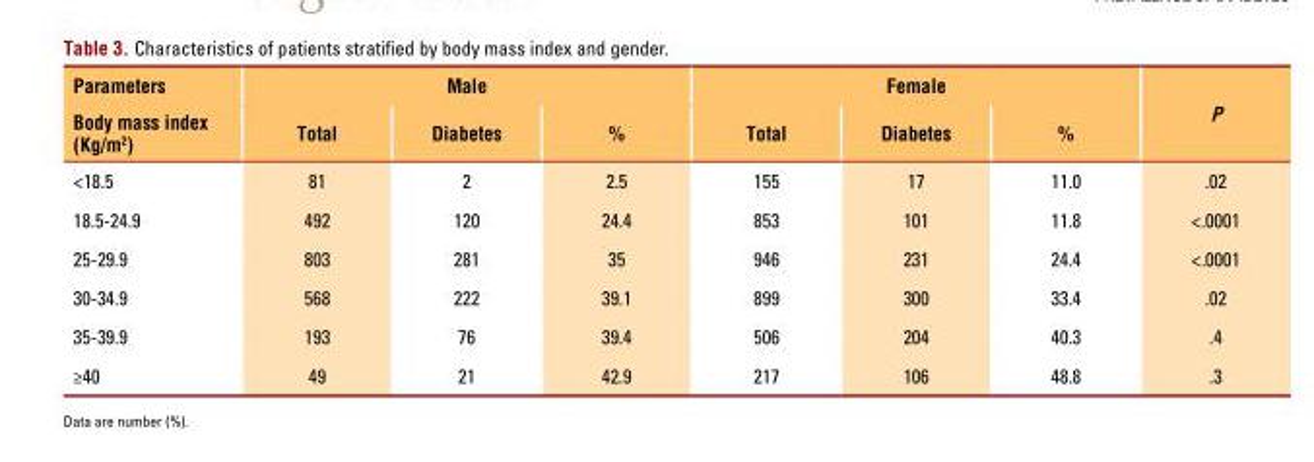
<table><thead><tr><td rowspan="2">Parameters Body mass index (Kg/m<sup>2</sup>)</td><td colspan="3">Male</td><td colspan="3">Female</td><td rowspan="2">P</td></tr><tr><td>Total</td><td>Diabetes</td><td>%</td><td>Total</td><td>Diabetes</td><td>%</td></tr></thead><tbody><tr><td>&lt;18.5</td><td>81</td><td>2</td><td>2.5</td><td>155</td><td>17</td><td>11.0</td><td>.02</td></tr><tr><td>18.5-24.9</td><td>492</td><td>120</td><td>24.4</td><td>853</td><td>101</td><td>11.8</td><td>&lt;.0001</td></tr><tr><td>25-29.9</td><td>803</td><td>281</td><td>35</td><td>946</td><td>231</td><td>24.4</td><td>&lt;.0001</td></tr><tr><td>30-34.9</td><td>568</td><td>222</td><td>39.1</td><td>899</td><td>300</td><td>33.4</td><td>.02</td></tr><tr><td>35-39.9</td><td>193</td><td>76</td><td>39.4</td><td>506</td><td>204</td><td>40.3</td><td>.4</td></tr><tr><td>≥40</td><td>49</td><td>21</td><td>42.9</td><td>217</td><td>106</td><td>48.8</td><td>.3</td></tr></tbody></table>